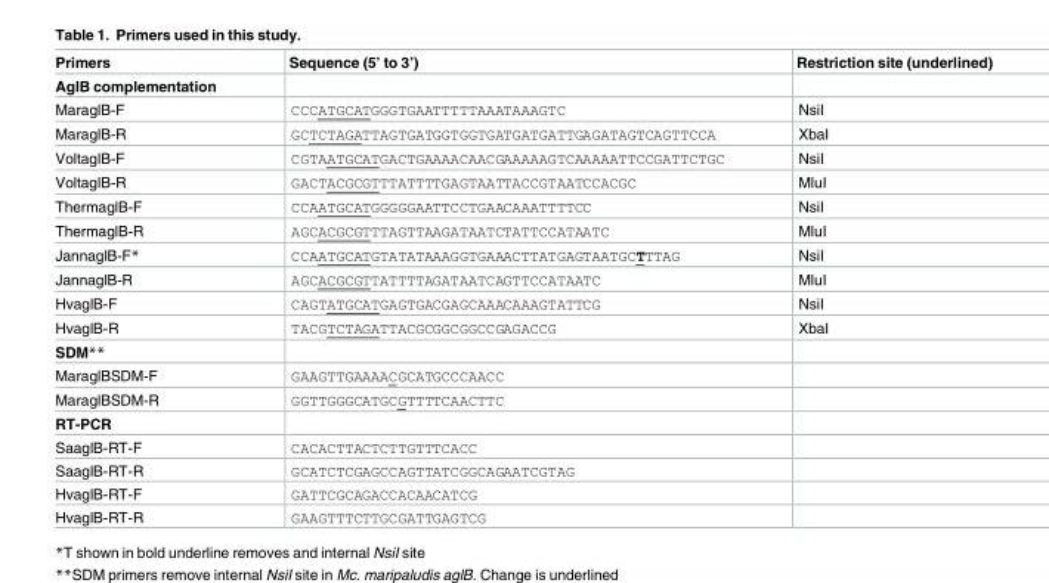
<table><thead><tr><td>Primers</td><td>Sequence (5’ to 3’)</td><td>Restriction site (underlined)</td></tr></thead><tbody><tr><td colspan="3">AglB complementation</td></tr><tr><td>MaraglB-F</td><td>CCCATGCATGGGTGAATTTTTAAATAAAGTC</td><td>NsiI</td></tr><tr><td>MaraglB-R</td><td>GCTCTAGATTAGTGATGGTGGTGATGATGATTGAGATAGTCAGTTCCA</td><td>XbaI</td></tr><tr><td>VoltaglB-F</td><td>CGTAATGCATGACTGAAAACAACGAAAAAGTCAAAAATTCCGATTCTGC</td><td>NsiI</td></tr><tr><td>VoltaglB-R</td><td>GACTACGCGTTTATTTTGAGTAATTACCGTAATCCACGC</td><td>MluI</td></tr><tr><td>ThermaglB-F</td><td>CCAATGCATGGGGGAATTCCTGAACAAATTTTCC</td><td>NsiI</td></tr><tr><td>ThermaglB-R</td><td>AGCACGCGTTTAGTTAAGATAATCTATTCCATAATC</td><td>MluI</td></tr><tr><td>JannaglB-F*</td><td>CCAATGCATGTATATAAAGGTGAAACTTATGAGTAATGCTTTAG</td><td>NsiI</td></tr><tr><td>JannaglB-R</td><td>AGCACGCGTTATTTTAGATAATCAGTTCCATAATC</td><td>MluI</td></tr><tr><td>HvaglB-F</td><td>CAGTATGCATGAGTGACGAGCAAACAAAGTATTCG</td><td>NsiI</td></tr><tr><td>HvaglB-R</td><td>TACGTCTAGATTACGCGGCGGCCGAGACCG</td><td>XbaI</td></tr><tr><td colspan="3">SDM**</td></tr><tr><td>MaraglBSDM-F</td><td>GAAGTTGAAAACGCATGCCCAACC</td><td></td></tr><tr><td>MaraglBSDM-R</td><td>GGTTGGGCATGCGTTTTCAACTTC</td><td></td></tr><tr><td colspan="3">RT-PCR</td></tr><tr><td>SaaglB-RT-F</td><td>CACACTTACTCTTGTTTCACC</td><td></td></tr><tr><td>SaaglB-RT-R</td><td>GCATCTCGAGCCAGTTATCGGCAGAATCGTAG</td><td></td></tr><tr><td>HvaglB-RT-F</td><td>GATTCGCAGACCACAACATCG</td><td></td></tr><tr><td>HvaglB-RT-R</td><td>GAAGTTTCTTGCGATTGAGTCG</td><td></td></tr></tbody></table>